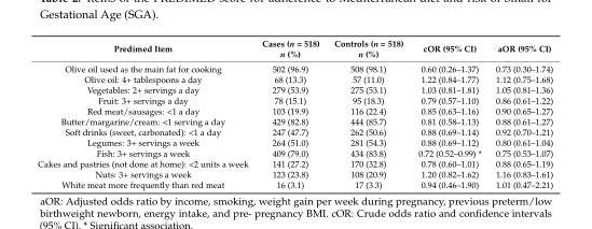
<table><thead><tr><td>Predimed Item</td><td>Cases (n = 518) n (%)</td><td>Controls (n = 518) n (%)</td><td>cOR (95% CI)</td><td>aOR (95% CI)</td></tr></thead><tbody><tr><td>Olive oil used as the main fat for cooking</td><td>502 (96.9)</td><td>508 (98.1)</td><td>0.60 (0.26–1.37)</td><td>0.73 (0.30–1.74)</td></tr><tr><td>Olive oil: 4+ tablespoons a day</td><td>68 (13.3)</td><td>57 (11.0)</td><td>1.22 (0.84–1.77)</td><td>1.12 (0.75–1.68)</td></tr><tr><td>Vegetables: 2+ servings a day</td><td>279 (53.9)</td><td>275 (53.1)</td><td>1.03 (0.81–1.81)</td><td>1.05 (0.81–1.36)</td></tr><tr><td>Fruit: 3+ servings a day</td><td>78 (15.1)</td><td>95 (18.3)</td><td>0.79 (0.57–1.10)</td><td>0.86 (0.61–1.22)</td></tr><tr><td>Red meat/sausages: &lt;1 a day</td><td>103 (19.9)</td><td>116 (22.4)</td><td>0.85 (0.63–1.16)</td><td>0.90 (0.65–1.27)</td></tr><tr><td>Butter/margarine/cream: &lt;1 serving a day</td><td>429 (82.8)</td><td>444 (85.7)</td><td>0.81 (0.58–1.13)</td><td>0.88 (0.61–1.27)</td></tr><tr><td>Soft drinks (sweet, carbonated): &lt;1 a day</td><td>247 (47.7)</td><td>262 (50.6)</td><td>0.88 (0.69–1.14)</td><td>0.92 (0.70–1.21)</td></tr><tr><td>Legumes: 3+ servings a week</td><td>264 (51.0)</td><td>281 (54.3)</td><td>0.88 (0.69–1.12)</td><td>0.80 (0.61–1.04)</td></tr><tr><td>Fish: 3+ servings a week</td><td>409 (79.0)</td><td>434 (83.8)</td><td>0.72 (0.52–0.99) *</td><td>0.75 (0.53–1.07)</td></tr><tr><td>Cakes and pastries (not done at home): &lt;2 units a week</td><td>141 (27.2)</td><td>170 (32.8)</td><td>0.78 (0.60–1.01)</td><td>0.88 (0.65–1.19)</td></tr><tr><td>Nuts: 3+ servings a week</td><td>123 (23.8)</td><td>108 (20.9)</td><td>1.20 (0.82–1.62)</td><td>1.16 (0.83–1.61)</td></tr><tr><td>White meat more frequently than red meat</td><td>16 (3.1)</td><td>17 (3.3)</td><td>0.94 (0.46–1.90)</td><td>1.01 (0.47–2.21)</td></tr></tbody></table>